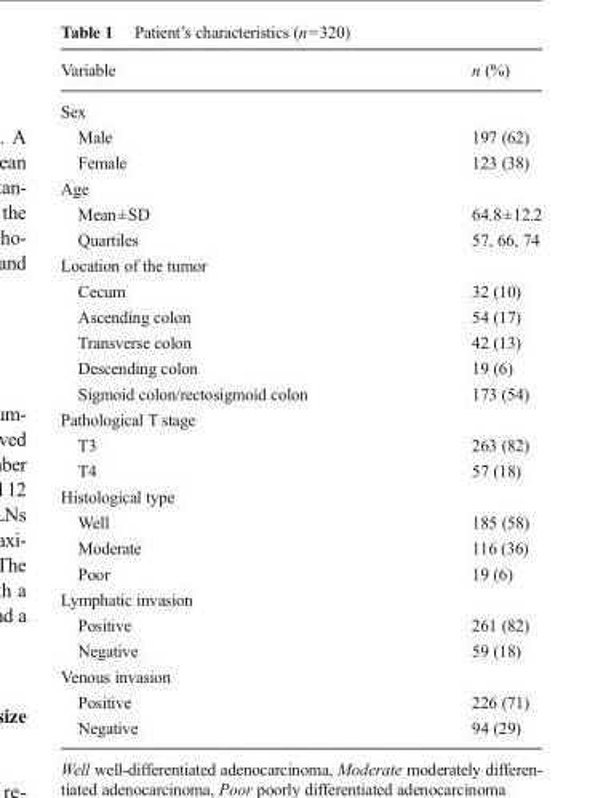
<table><thead><tr><td>Variable</td><td>n (%)</td></tr></thead><tbody><tr><td colspan="2">Sex</td></tr><tr><td>Male</td><td>197 (62)</td></tr><tr><td>Female</td><td>123 (38)</td></tr><tr><td colspan="2">Age</td></tr><tr><td>Mean±SD</td><td>64.8±12.2</td></tr><tr><td>Quartiles</td><td>57, 66, 74</td></tr><tr><td colspan="2">Location of the tumor</td></tr><tr><td>Cecum</td><td>32 (10)</td></tr><tr><td>Ascending colon</td><td>54 (17)</td></tr><tr><td>Transverse colon</td><td>42 (13)</td></tr><tr><td>Descending colon</td><td>19 (6)</td></tr><tr><td>Sigmoid colon/rectosigmoid colon</td><td>173 (54)</td></tr><tr><td colspan="2">Pathological T stage</td></tr><tr><td>T3</td><td>263 (82)</td></tr><tr><td>T4</td><td>57 (18)</td></tr><tr><td colspan="2">Histological type</td></tr><tr><td>Well</td><td>185 (58)</td></tr><tr><td>Moderate</td><td>116 (36)</td></tr><tr><td>Poor</td><td>19 (6)</td></tr><tr><td colspan="2">Lymphatic invasion</td></tr><tr><td>Positive</td><td>261 (82)</td></tr><tr><td>Negative</td><td>59 (18)</td></tr><tr><td colspan="2">Venous invasion</td></tr><tr><td>Positive</td><td>226 (71)</td></tr><tr><td>Negative</td><td>94 (29)</td></tr></tbody></table>